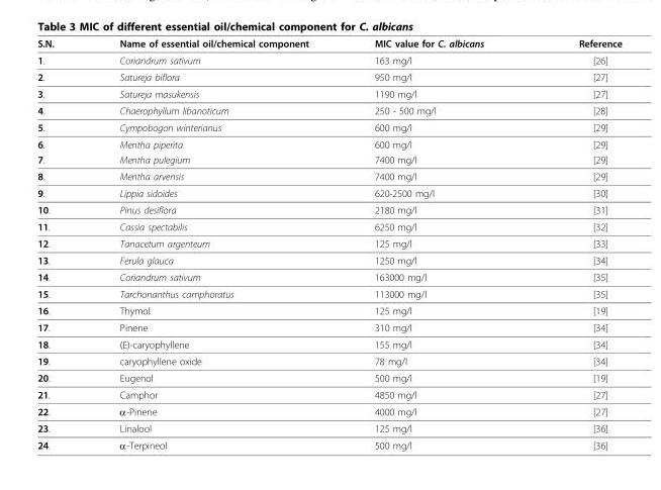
<table><thead><tr><td>S.N.</td><td>Name of essential oil/chemical component</td><td>MIC value for C. albicans</td><td>Reference</td></tr></thead><tbody><tr><td>1.</td><td>Coriandrum sativum</td><td>163 mg/l</td><td>[26]</td></tr><tr><td>2.</td><td>Satureja biflora</td><td>950 mg/l</td><td>[27]</td></tr><tr><td>3.</td><td>Satureja masukensis</td><td>1190 mg/l</td><td>[27]</td></tr><tr><td>4.</td><td>Chaerophyllum libanoticum</td><td>250 - 500 mg/l</td><td>[28]</td></tr><tr><td>5.</td><td>Cympobogon winterianus</td><td>600 mg/l</td><td>[29]</td></tr><tr><td>6.</td><td>Mentha piperita</td><td>600 mg/l</td><td>[29]</td></tr><tr><td>7.</td><td>Mentha pulegium</td><td>7400 mg/l</td><td>[29]</td></tr><tr><td>8.</td><td>Mentha arvensis</td><td>7400 mg/l</td><td>[29]</td></tr><tr><td>9.</td><td>Lippia sidoides</td><td>620-2500 mg/l</td><td>[30]</td></tr><tr><td>10.</td><td>Pinus desiflora</td><td>2180 mg/l</td><td>[31]</td></tr><tr><td>11.</td><td>Cassia spectabilis</td><td>6250 mg/l</td><td>[32]</td></tr><tr><td>12.</td><td>Tanacetum argenteum</td><td>125 mg/l</td><td>[33]</td></tr><tr><td>13.</td><td>Ferula glauca</td><td>1250 mg/l</td><td>[34]</td></tr><tr><td>14.</td><td>Coriandrum sativum</td><td>163000 mg/l</td><td>[35]</td></tr><tr><td>15.</td><td>Tarchonanthus camphoratus</td><td>113000 mg/l</td><td>[35]</td></tr><tr><td>16.</td><td>Thymol</td><td>125 mg/l</td><td>[19]</td></tr><tr><td>17.</td><td>Pinene</td><td>310 mg/l</td><td>[34]</td></tr><tr><td>18.</td><td>(E)-caryophyllene</td><td>155 mg/l</td><td>[34]</td></tr><tr><td>19.</td><td>caryophyllene oxide</td><td>78 mg/l</td><td>[34]</td></tr><tr><td>20.</td><td>Eugenol</td><td>500 mg/l</td><td>[19]</td></tr><tr><td>21.</td><td>Camphor</td><td>4850 mg/l</td><td>[27]</td></tr><tr><td>22.</td><td>α-Pinene</td><td>4000 mg/l</td><td>[27]</td></tr><tr><td>23.</td><td>Linalool</td><td>125 mg/l</td><td>[36]</td></tr><tr><td>24.</td><td>α-Terpineol</td><td>500 mg/l</td><td>[36]</td></tr></tbody></table>